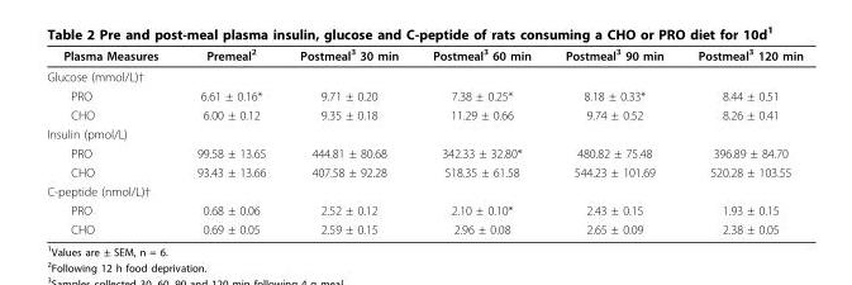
<table><thead><tr><td>Plasma Measures</td><td>Premeal<sup>2</sup></td><td>Postmeal<sup>3</sup> 30 min</td><td>Postmeal<sup>3</sup> 60 min</td><td>Postmeal<sup>3</sup> 90 min</td><td>Postmeal<sup>3</sup> 120 min</td></tr></thead><tbody><tr><td colspan="6">Glucose (mmol/L)†</td></tr><tr><td>PRO</td><td>6.61 ± 0.16*</td><td>9.71 ± 0.20</td><td>7.38 ± 0.25*</td><td>8.18 ± 0.33*</td><td>8.44 ± 0.51</td></tr><tr><td>CHO</td><td>6.00 ± 0.12</td><td>9.35 ± 0.18</td><td>11.29 ± 0.66</td><td>9.74 ± 0.52</td><td>8.26 ± 0.41</td></tr><tr><td colspan="6">Insulin (pmol/L)</td></tr><tr><td>PRO</td><td>99.58 ± 13.65</td><td>444.81 ± 80.68</td><td>342.33 ± 32.80*</td><td>480.82 ± 75.48</td><td>396.89 ± 84.70</td></tr><tr><td>CHO</td><td>93.43 ± 13.66</td><td>407.58 ± 92.28</td><td>518.35 ± 61.58</td><td>544.23 ± 101.69</td><td>520.28 ± 103.55</td></tr><tr><td colspan="6">C-peptide (nmol/L)†</td></tr><tr><td>PRO</td><td>0.68 ± 0.06</td><td>2.52 ± 0.12</td><td>2.10 ± 0.10*</td><td>2.43 ± 0.15</td><td>1.93 ± 0.15</td></tr><tr><td>CHO</td><td>0.69 ± 0.05</td><td>2.59 ± 0.15</td><td>2.96 ± 0.08</td><td>2.65 ± 0.09</td><td>2.38 ± 0.05</td></tr></tbody></table>